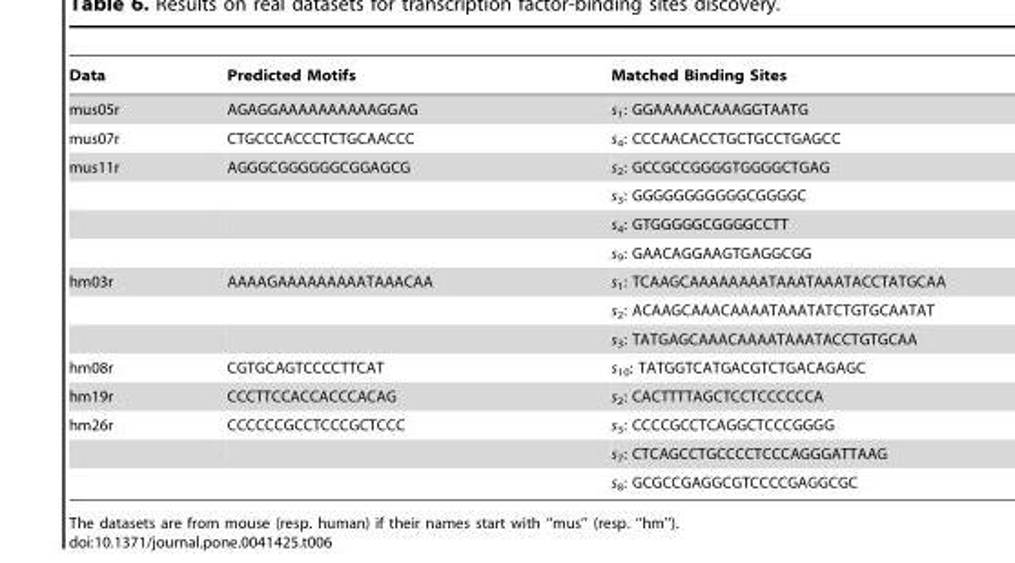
<table><thead><tr><td>Data</td><td>Predicted Motifs</td><td>Matched Binding Sites</td></tr></thead><tbody><tr><td>mus05r</td><td>AGAGGAAAAAAAAAAGGAG</td><td>s<sub>1</sub>: GGAAAAACAAAGGTAATG</td></tr><tr><td>mus07r</td><td>CTGCCCACCCTCTGCAACCC</td><td>s<sub>4</sub>: CCCAACACCTGCTGCCTGAGCC</td></tr><tr><td rowspan="4">mus11r</td><td>AGGGCGGGGGGCGGAGCG</td><td>s<sub>2</sub>: GCCGCCGGGGTGGGGCTGAG</td></tr><tr><td></td><td>s<sub>3</sub>: GGGGGGGGGGGCGGGGC</td></tr><tr><td></td><td>s<sub>4</sub>: GTGGGGGCGGGGCCTT</td></tr><tr><td></td><td>s<sub>9</sub>: GAACAGGAAGTGAGGCGG</td></tr><tr><td rowspan="3">hm03r</td><td>AAAAGAAAAAAAAATAAACAA</td><td>s<sub>1</sub>: TCAAGCAAAAAAAATAAATAAATACCTATGCAA</td></tr><tr><td></td><td>s<sub>2</sub>: ACAAGCAAACAAAATAAATATCTGTGCAATAT</td></tr><tr><td></td><td>s<sub>3</sub>: TATGAGCAAACAAAATAAATACCTGTGCAA</td></tr><tr><td>hm08r</td><td>CGTGCAGTCCCCTTCAT</td><td>s<sub>10</sub>: TATGGTCATGACGTCTGACAGAGC</td></tr><tr><td>hm19r</td><td>CCCTTCCACCACCCACAG</td><td>s<sub>2</sub>: CACTTTTAGCTCCTCCCCCCA</td></tr><tr><td rowspan="3">hm26r</td><td>CCCCCCGCCTCCCGCTCCC</td><td>s<sub>3</sub>: CCCCGCCTCAGGCTCCCGGGG</td></tr><tr><td></td><td>s<sub>7</sub>: CTCAGCCTGCCCCTCCCAGGGATTAAG</td></tr><tr><td></td><td>s<sub>8</sub>: GCGCCGAGGCGTCCCCGAGGCGC</td></tr></tbody></table>